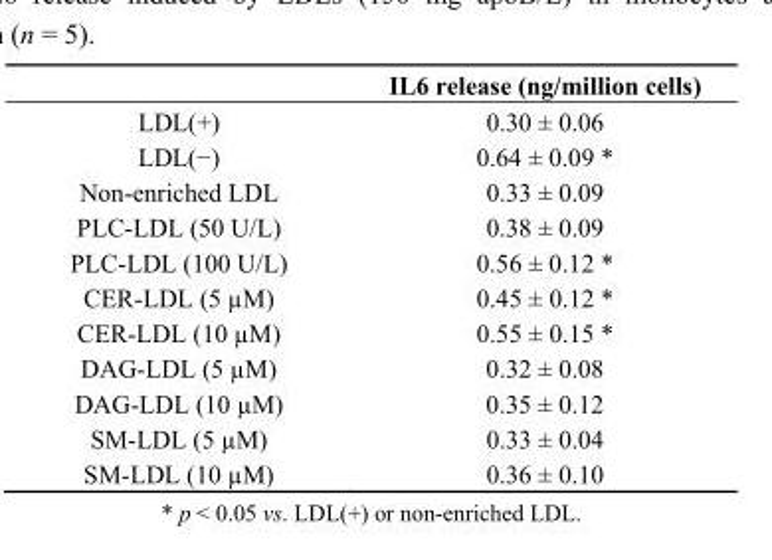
<table><thead><tr><td></td><td>IL6 release (ng/million cells)</td></tr></thead><tbody><tr><td>LDL(+)</td><td>0.30 ± 0.06</td></tr><tr><td>LDL(−)</td><td>0.64 ± 0.09 *</td></tr><tr><td>Non-enriched LDL</td><td>0.33 ± 0.09</td></tr><tr><td>PLC-LDL (50 U/L)</td><td>0.38 ± 0.09</td></tr><tr><td>PLC-LDL (100 U/L)</td><td>0.56 ± 0.12 *</td></tr><tr><td>CER-LDL (5 µM)</td><td>0.45 ± 0.12 *</td></tr><tr><td>CER-LDL (10 µM)</td><td>0.55 ± 0.15 *</td></tr><tr><td>DAG-LDL (5 µM)</td><td>0.32 ± 0.08</td></tr><tr><td>DAG-LDL (10 µM)</td><td>0.35 ± 0.12</td></tr><tr><td>SM-LDL (5 µM)</td><td>0.33 ± 0.04</td></tr><tr><td>SM-LDL (10 µM)</td><td>0.36 ± 0.10</td></tr></tbody></table>